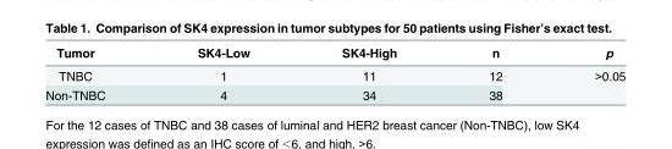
<table><thead><tr><td>Tumor</td><td>SK4-Low</td><td>SK4-High</td><td>n</td><td>p</td></tr></thead><tbody><tr><td>TNBC</td><td>1</td><td>11</td><td>12</td><td rowspan="2">&gt;0.05</td></tr><tr><td>Non-TNBC</td><td>4</td><td>34</td><td>38</td></tr></tbody></table>